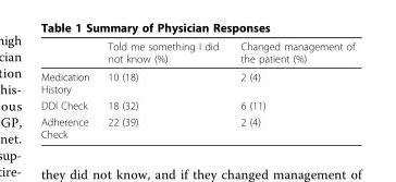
<table><thead><tr><td></td><td>Told me something I did not know (%)</td><td>Changed management of the patient (%)</td></tr></thead><tbody><tr><td>Medication History</td><td>10 (18)</td><td>2 (4)</td></tr><tr><td>DDI Check</td><td>18 (32)</td><td>6 (11)</td></tr><tr><td>Adherence Check</td><td>22 (39)</td><td>2 (4)</td></tr></tbody></table>